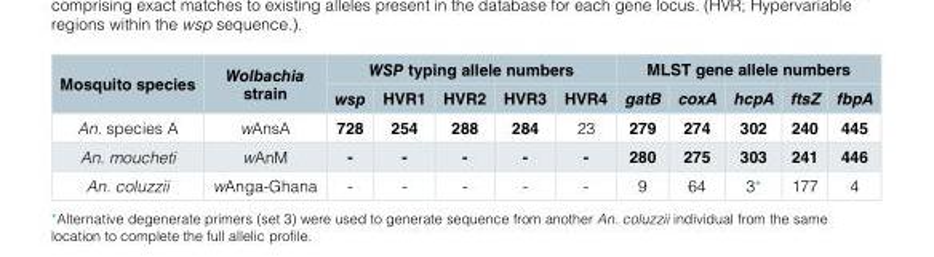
<table><thead><tr><td rowspan="2">Mosquito species</td><td rowspan="2">Wolbachia strain</td><td colspan="5">WSP typing allele numbers</td><td colspan="5">MLST gene allele numbers</td></tr><tr><td>wsp</td><td>HVR1</td><td>HVR2</td><td>HVR3</td><td>HVR4</td><td>gatB</td><td>coxA</td><td>hcpA</td><td>ftsZ</td><td>fbpA</td></tr></thead><tbody><tr><td>An. species A</td><td>wAnsA</td><td>728</td><td>254</td><td>288</td><td>284</td><td>23</td><td>279</td><td>274</td><td>302</td><td>240</td><td>445</td></tr><tr><td>An. moucheti</td><td>wAnM</td><td>-</td><td>-</td><td>-</td><td>-</td><td>-</td><td>280</td><td>275</td><td>303</td><td>241</td><td>446</td></tr><tr><td>An. coluzzii</td><td>wAnga-Ghana</td><td>-</td><td>-</td><td>-</td><td>-</td><td>-</td><td>9</td><td>64</td><td>3*</td><td>177</td><td>4</td></tr></tbody></table>